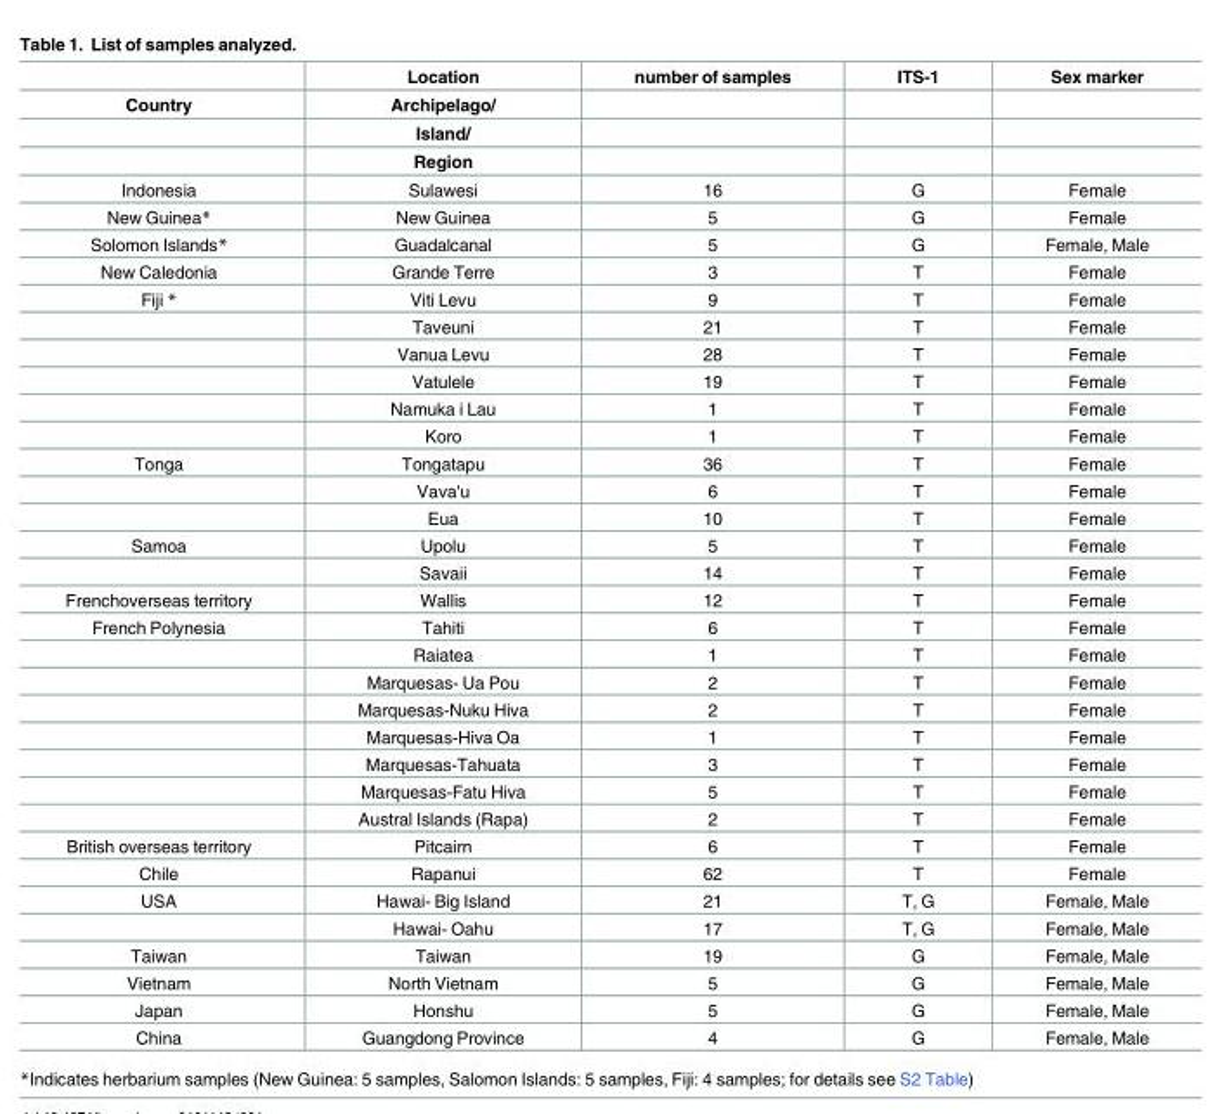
<table><thead><tr><td rowspan="4">Country</td><td rowspan="4">Location Archipelago/ Island/ Region</td><td rowspan="4">number of samples</td><td rowspan="4">ITS-1</td><td rowspan="4">Sex marker</td></tr><tr></tr><tr></tr><tr></tr></thead><tbody><tr><td>Indonesia</td><td>Sulawesi</td><td>16</td><td>G</td><td>Female</td></tr><tr><td>New Guinea*</td><td>New Guinea</td><td>5</td><td>G</td><td>Female</td></tr><tr><td>Solomon Islands*</td><td>Guadalcanal</td><td>5</td><td>G</td><td>Female, Male</td></tr><tr><td>New Caledonia</td><td>Grande Terre</td><td>3</td><td>T</td><td>Female</td></tr><tr><td rowspan="6">Fiji *</td><td>Viti Levu</td><td>9</td><td>T</td><td>Female</td></tr><tr><td>Taveuni</td><td>21</td><td>T</td><td>Female</td></tr><tr><td>Vanua Levu</td><td>28</td><td>T</td><td>Female</td></tr><tr><td>Vatulele</td><td>19</td><td>T</td><td>Female</td></tr><tr><td>Namuka i Lau</td><td>1</td><td>T</td><td>Female</td></tr><tr><td>Koro</td><td>1</td><td>T</td><td>Female</td></tr><tr><td rowspan="3">Tonga</td><td>Tongatapu</td><td>36</td><td>T</td><td>Female</td></tr><tr><td>Vava&#x27;u</td><td>6</td><td>T</td><td>Female</td></tr><tr><td>Eua</td><td>10</td><td>T</td><td>Female</td></tr><tr><td rowspan="2">Samoa</td><td>Upolu</td><td>5</td><td>T</td><td>Female</td></tr><tr><td>Savaii</td><td>14</td><td>T</td><td>Female</td></tr><tr><td>Frenchoverseas territory</td><td>Wallis</td><td>12</td><td>T</td><td>Female</td></tr><tr><td rowspan="8">French Polynesia</td><td>Tahiti</td><td>6</td><td>T</td><td>Female</td></tr><tr><td>Raiatea</td><td>1</td><td>T</td><td>Female</td></tr><tr><td>Marquesas- Ua Pou</td><td>2</td><td>T</td><td>Female</td></tr><tr><td>Marquesas-Nuku Hiva</td><td>2</td><td>T</td><td>Female</td></tr><tr><td>Marquesas-Hiva Oa</td><td>1</td><td>T</td><td>Female</td></tr><tr><td>Marquesas-Tahuata</td><td>3</td><td>T</td><td>Female</td></tr><tr><td>Marquesas-Fatu Hiva</td><td>5</td><td>T</td><td>Female</td></tr><tr><td>Austral Islands (Rapa)</td><td>2</td><td>T</td><td>Female</td></tr><tr><td>British overseas territory</td><td>Pitcairn</td><td>6</td><td>T</td><td>Female</td></tr><tr><td>Chile</td><td>Rapanui</td><td>62</td><td>T</td><td>Female</td></tr><tr><td rowspan="2">USA</td><td>Hawai- Big Island</td><td>21</td><td>T, G</td><td>Female, Male</td></tr><tr><td>Hawai- Oahu</td><td>17</td><td>T, G</td><td>Female, Male</td></tr><tr><td>Taiwan</td><td>Taiwan</td><td>19</td><td>G</td><td>Female, Male</td></tr><tr><td>Vietnam</td><td>North Vietnam</td><td>5</td><td>G</td><td>Female, Male</td></tr><tr><td>Japan</td><td>Honshu</td><td>5</td><td>G</td><td>Female, Male</td></tr><tr><td>China</td><td>Guangdong Province</td><td>4</td><td>G</td><td>Female, Male</td></tr></tbody></table>